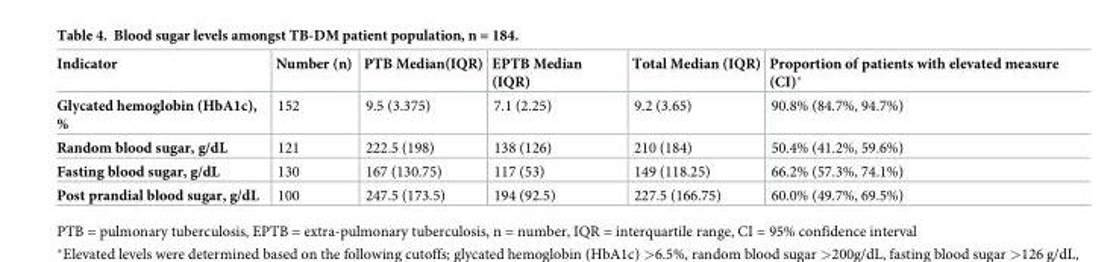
<table><thead><tr><td>Indicator</td><td>Number (n)</td><td>PTB Median(IQR)</td><td>EPTB Median (IQR)</td><td>Total Median (IQR)</td><td>Proportion of patients with elevated measure (CI)*</td></tr></thead><tbody><tr><td>Glycated hemoglobin (HbA1c), %</td><td>152</td><td>9.5 (3.375)</td><td>7.1 (2.25)</td><td>9.2 (3.65)</td><td>90.8% (84.7%, 94.7%)</td></tr><tr><td>Random blood sugar, g/dL</td><td>121</td><td>222.5 (198)</td><td>138 (126)</td><td>210 (184)</td><td>50.4% (41.2%, 59.6%)</td></tr><tr><td>Fasting blood sugar, g/dL</td><td>130</td><td>167 (130.75)</td><td>117 (53)</td><td>149 (118.25)</td><td>66.2% (57.3%, 74.1%)</td></tr><tr><td>Post prandial blood sugar, g/dL</td><td>100</td><td>247.5 (173.5)</td><td>194 (92.5)</td><td>227.5 (166.75)</td><td>60.0% (49.7%, 69.5%)</td></tr></tbody></table>